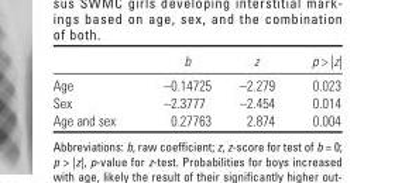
<table><thead><tr><td></td><td>b</td><td>z</td><td>p &gt; |z|</td></tr></thead><tbody><tr><td>Age</td><td>–0.14725</td><td>–2.279</td><td>0.023</td></tr><tr><td>Sex</td><td>–2.3777</td><td>–2.454</td><td>0.014</td></tr><tr><td>Age and sex</td><td>0.27763</td><td>2.874</td><td>0.004</td></tr></tbody></table>